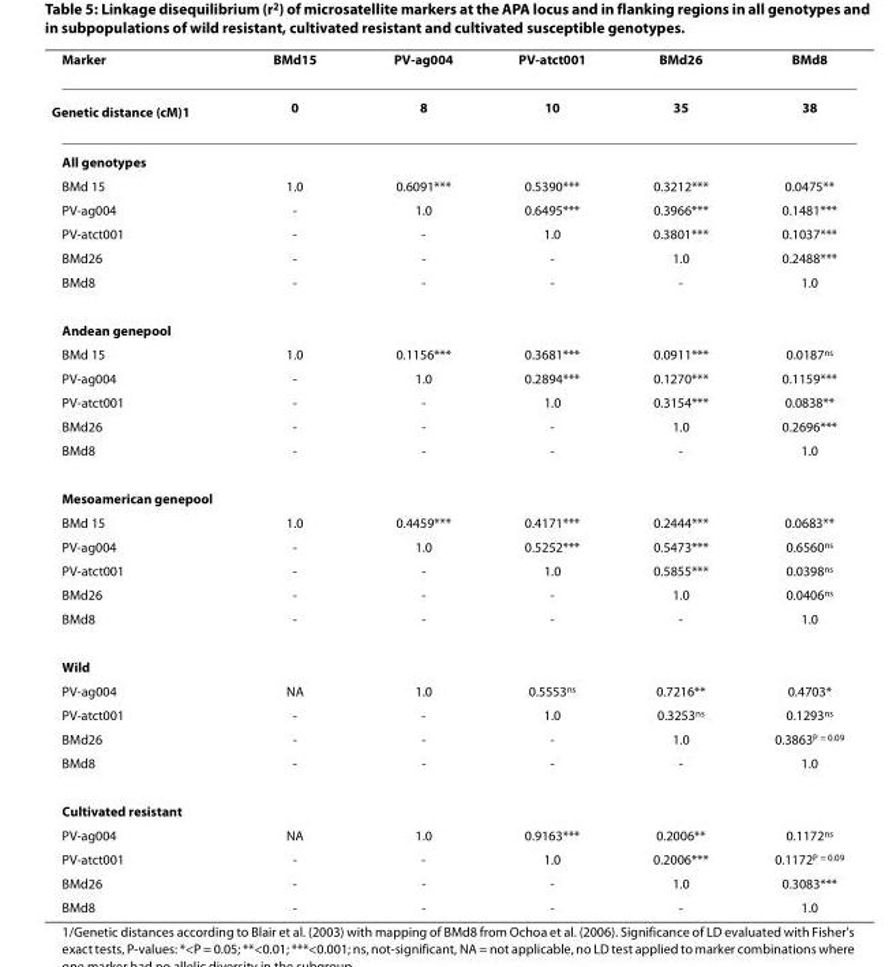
<table><thead><tr><td>Marker</td><td>BMd15</td><td>PV-ag004</td><td>PV-atct001</td><td>BMd26</td><td>BMd8</td></tr></thead><tbody><tr><td>Genetic distance (cM)<sup>1</sup></td><td>0</td><td>8</td><td>10</td><td>35</td><td>38</td></tr><tr><td colspan="6">All genotypes</td></tr><tr><td>BMd 15</td><td>1.0</td><td>0.6091***</td><td>0.5390***</td><td>0.3212***</td><td>0.0475**</td></tr><tr><td>PV-ag004</td><td>-</td><td>1.0</td><td>0.6495***</td><td>0.3966***</td><td>0.1481***</td></tr><tr><td>PV-atct001</td><td>-</td><td>-</td><td>1.0</td><td>0.3801***</td><td>0.1037***</td></tr><tr><td>BMd26</td><td>-</td><td>-</td><td>-</td><td>1.0</td><td>0.2488***</td></tr><tr><td>BMd8</td><td>-</td><td>-</td><td>-</td><td>-</td><td>1.0</td></tr><tr><td colspan="6">Andean genepool</td></tr><tr><td>BMd 15</td><td>1.0</td><td>0.1156***</td><td>0.3681***</td><td>0.0911***</td><td>0.0187<sup>ns</sup></td></tr><tr><td>PV-ag004</td><td>-</td><td>1.0</td><td>0.2894***</td><td>0.1270***</td><td>0.1159***</td></tr><tr><td>PV-atct001</td><td>-</td><td>-</td><td>1.0</td><td>0.3154***</td><td>0.0838**</td></tr><tr><td>BMd26</td><td>-</td><td>-</td><td>-</td><td>1.0</td><td>0.2696***</td></tr><tr><td>BMd8</td><td>-</td><td>-</td><td>-</td><td>-</td><td>1.0</td></tr><tr><td colspan="6">Mesoamerican genepool</td></tr><tr><td>BMd 15</td><td>1.0</td><td>0.4459***</td><td>0.4171***</td><td>0.2444***</td><td>0.0683**</td></tr><tr><td>PV-ag004</td><td>-</td><td>1.0</td><td>0.5252***</td><td>0.5473***</td><td>0.6560<sup>ns</sup></td></tr><tr><td>PV-atct001</td><td>-</td><td>-</td><td>1.0</td><td>0.5855***</td><td>0.0398<sup>ns</sup></td></tr><tr><td>BMd26</td><td>-</td><td>-</td><td>-</td><td>1.0</td><td>0.0406<sup>ns</sup></td></tr><tr><td>BMd8</td><td>-</td><td>-</td><td>-</td><td>-</td><td>1.0</td></tr><tr><td colspan="6">Wild</td></tr><tr><td>PV-ag004</td><td>NA</td><td>1.0</td><td>0.5553<sup>ns</sup></td><td>0.7216**</td><td>0.4703*</td></tr><tr><td>PV-atct001</td><td>-</td><td>-</td><td>1.0</td><td>0.3253<sup>ns</sup></td><td>0.1293<sup>ns</sup></td></tr><tr><td>BMd26</td><td>-</td><td>-</td><td>-</td><td>1.0</td><td>0.3863<sup>P = 0.09</sup></td></tr><tr><td>BMd8</td><td>-</td><td>-</td><td>-</td><td>-</td><td>1.0</td></tr><tr><td colspan="6">Cultivated resistant</td></tr><tr><td>PV-ag004</td><td>NA</td><td>1.0</td><td>0.9163***</td><td>0.2006**</td><td>0.1172<sup>ns</sup></td></tr><tr><td>PV-atct001</td><td>-</td><td>-</td><td>1.0</td><td>0.2006***</td><td>0.1172<sup>P = 0.09</sup></td></tr><tr><td>BMd26</td><td>-</td><td>-</td><td>-</td><td>1.0</td><td>0.3083***</td></tr><tr><td>BMd8</td><td>-</td><td>-</td><td>-</td><td>-</td><td>1.0</td></tr></tbody></table>